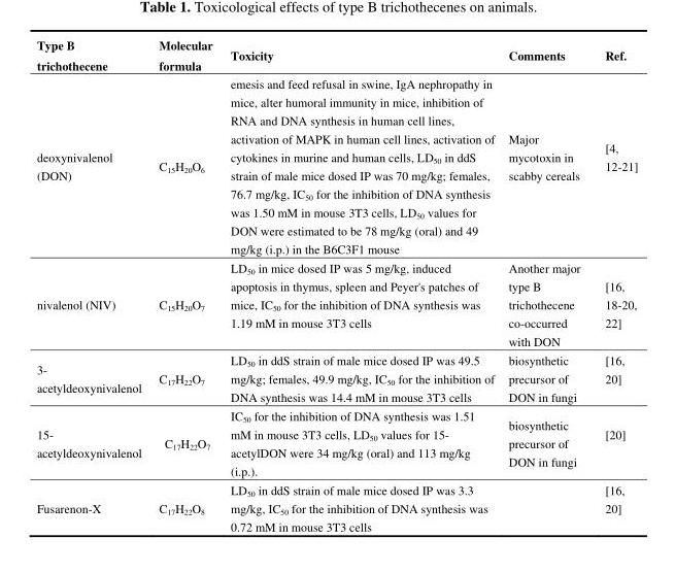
<table><thead><tr><td>Type B trichothecene</td><td>Molecular formula</td><td>Toxicity</td><td>Comments</td><td>Ref.</td></tr></thead><tbody><tr><td>deoxynivalenol (DON)</td><td>C<sub>15</sub>H<sub>20</sub>O<sub>6</sub></td><td>emesis and feed refusal in swine, IgA nephropathy in mice, alter humoral immunity in mice, inhibition of RNA and DNA synthesis in human cell lines, activation of MAPK in human cell lines, activation of cytokines in murine and human cells, LD<sub>50</sub> in ddS strain of male mice dosed IP was 70 mg/kg; females, 76.7 mg/kg, IC<sub>50</sub> for the inhibition of DNA synthesis was 1.50 mM in mouse 3T3 cells, LD<sub>50</sub> values for DON were estimated to be 78 mg/kg (oral) and 49 mg/kg (i.p.) in the B6C3F1 mouse</td><td>Major mycotoxin in scabby cereals</td><td>[4, 12-21]</td></tr><tr><td>nivalenol (NIV)</td><td>C<sub>15</sub>H<sub>20</sub>O<sub>7</sub></td><td>LD<sub>50</sub> in mice dosed IP was 5 mg/kg, induced apoptosis in thymus, spleen and Peyer&#x27;s patches of mice, IC<sub>50</sub> for the inhibition of DNA synthesis was 1.19 mM in mouse 3T3 cells</td><td>Another major type B trichothecene co-occurred with DON</td><td>[16, 18-20, 22]</td></tr><tr><td>3- acetyldeoxynivalenol</td><td>C<sub>17</sub>H<sub>22</sub>O<sub>7</sub></td><td>LD<sub>50</sub> in ddS strain of male mice dosed IP was 49.5 mg/kg; females, 49.9 mg/kg, IC<sub>50</sub> for the inhibition of DNA synthesis was 14.4 mM in mouse 3T3 cells</td><td>biosynthetic precursor of DON in fungi</td><td>[16, 20]</td></tr><tr><td>15- acetyldeoxynivalenol</td><td>C<sub>17</sub>H<sub>22</sub>O<sub>7</sub></td><td>IC<sub>50</sub> for the inhibition of DNA synthesis was 1.51 mM in mouse 3T3 cells, LD<sub>50</sub> values for 15- acetylDON were 34 mg/kg (oral) and 113 mg/kg (i.p.).</td><td>biosynthetic precursor of DON in fungi</td><td>[20]</td></tr><tr><td>Fusarenon-X</td><td>C<sub>17</sub>H<sub>22</sub>O<sub>8</sub></td><td>LD<sub>50</sub> in ddS strain of male mice dosed IP was 3.3 mg/kg, IC<sub>50</sub> for the inhibition of DNA synthesis was 0.72 mM in mouse 3T3 cells</td><td></td><td>[16, 20]</td></tr></tbody></table>